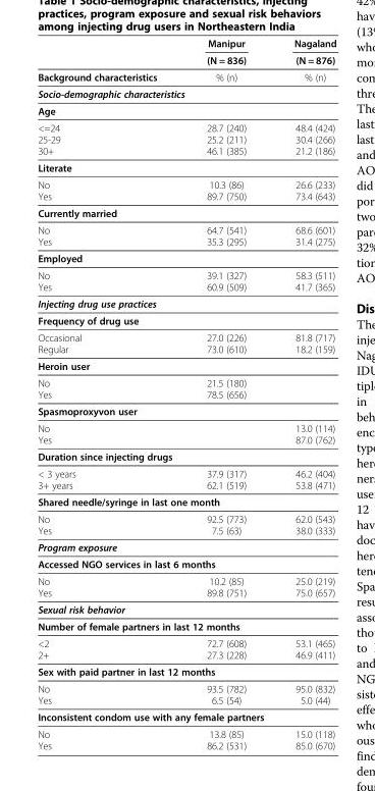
<table><thead><tr><td rowspan="2"></td><td rowspan="2">Manipur (N = 836)</td><td rowspan="2">Nagaland (N = 876)</td></tr><tr></tr></thead><tbody><tr><td>Background characteristics</td><td>% (n)</td><td>% (n)</td></tr><tr><td colspan="3">Socio-demographic characteristics</td></tr><tr><td colspan="3">Age</td></tr><tr><td>&lt;=24</td><td>28.7 (240)</td><td>48.4 (424)</td></tr><tr><td>25-29</td><td>25.2 (211)</td><td>30.4 (266)</td></tr><tr><td>30+</td><td>46.1 (385)</td><td>21.2 (186)</td></tr><tr><td colspan="3">Literate</td></tr><tr><td>No</td><td>10.3 (86)</td><td>26.6 (233)</td></tr><tr><td>Yes</td><td>89.7 (750)</td><td>73.4 (643)</td></tr><tr><td colspan="3">Currently married</td></tr><tr><td>No</td><td>64.7 (541)</td><td>68.6 (601)</td></tr><tr><td>Yes</td><td>35.3 (295)</td><td>31.4 (275)</td></tr><tr><td colspan="3">Employed</td></tr><tr><td>No</td><td>39.1 (327)</td><td>58.3 (511)</td></tr><tr><td>Yes</td><td>60.9 (509)</td><td>41.7 (365)</td></tr><tr><td colspan="3">Injecting drug use practices</td></tr><tr><td colspan="3">Frequency of drug use</td></tr><tr><td>Occasional</td><td>27.0 (226)</td><td>81.8 (717)</td></tr><tr><td>Regular</td><td>73.0 (610)</td><td>18.2 (159)</td></tr><tr><td colspan="3">Heroin user</td></tr><tr><td>No</td><td>21.5 (180)</td><td></td></tr><tr><td>Yes</td><td>78.5 (656)</td><td></td></tr><tr><td colspan="3">Spasmoproxyvon user</td></tr><tr><td>No</td><td></td><td>13.0 (114)</td></tr><tr><td>Yes</td><td></td><td>87.0 (762)</td></tr><tr><td colspan="3">Duration since injecting drugs</td></tr><tr><td>&lt; 3 years</td><td>37.9 (317)</td><td>46.2 (404)</td></tr><tr><td>3+ years</td><td>62.1 (519)</td><td>53.8 (471)</td></tr><tr><td colspan="3">Shared needle/syringe in last one month</td></tr><tr><td>No</td><td>92.5 (773)</td><td>62.0 (543)</td></tr><tr><td>Yes</td><td>7.5 (63)</td><td>38.0 (333)</td></tr><tr><td colspan="3">Program exposure</td></tr><tr><td colspan="3">Accessed NGO services in last 6 months</td></tr><tr><td>No</td><td>10.2 (85)</td><td>25.0 (219)</td></tr><tr><td>Yes</td><td>89.8 (751)</td><td>75.0 (657)</td></tr><tr><td colspan="3">Sexual risk behavior</td></tr><tr><td colspan="3">Number of female partners in last 12 months</td></tr><tr><td>&lt;2</td><td>72.7 (608)</td><td>53.1 (465)</td></tr><tr><td>2+</td><td>27.3 (228)</td><td>46.9 (411)</td></tr><tr><td colspan="3">Sex with paid partner in last 12 months</td></tr><tr><td>No</td><td>93.5 (782)</td><td>95.0 (832)</td></tr><tr><td>Yes</td><td>6.5 (54)</td><td>5.0 (44)</td></tr><tr><td colspan="3">Inconsistent condom use with any female partners</td></tr><tr><td>No</td><td>13.8 (85)</td><td>15.0 (118)</td></tr><tr><td>Yes</td><td>86.2 (531)</td><td>85.0 (670)</td></tr></tbody></table>